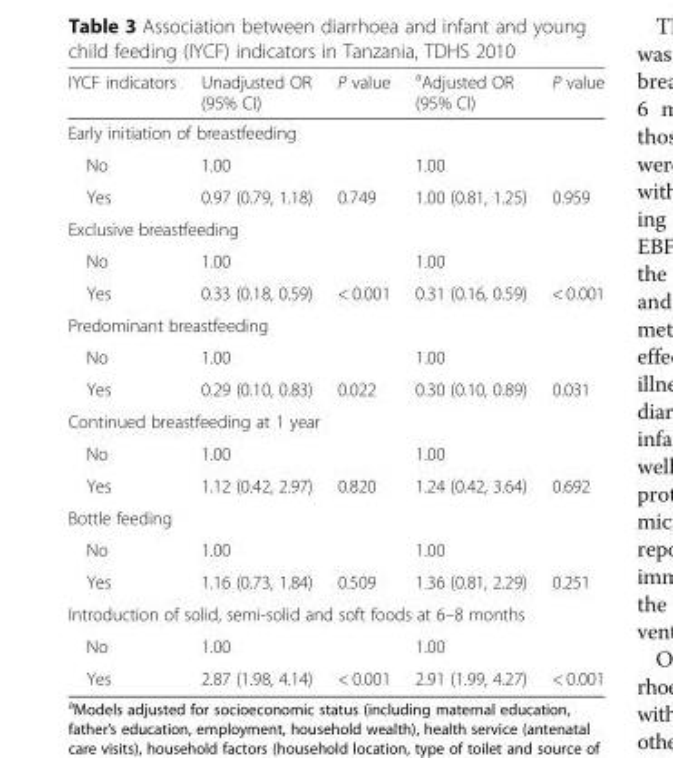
<table><thead><tr><td>IYCF indicators</td><td>Unadjusted OR (95% CI)</td><td>P value</td><td><sup>a</sup>Adjusted OR (95% CI)</td><td>P value</td></tr></thead><tbody><tr><td colspan="5">Early initiation of breastfeeding</td></tr><tr><td>No</td><td>1.00</td><td></td><td>1.00</td><td></td></tr><tr><td>Yes</td><td>0.97 (0.79, 1.18)</td><td>0.749</td><td>1.00 (0.81, 1.25)</td><td>0.959</td></tr><tr><td colspan="5">Exclusive breastfeeding</td></tr><tr><td>No</td><td>1.00</td><td></td><td>1.00</td><td></td></tr><tr><td>Yes</td><td>0.33 (0.18, 0.59)</td><td>&lt; 0.001</td><td>0.31 (0.16, 0.59)</td><td>&lt; 0.001</td></tr><tr><td colspan="5">Predominant breastfeeding</td></tr><tr><td>No</td><td>1.00</td><td></td><td>1.00</td><td></td></tr><tr><td>Yes</td><td>0.29 (0.10, 0.83)</td><td>0.022</td><td>0.30 (0.10, 0.89)</td><td>0.031</td></tr><tr><td colspan="5">Continued breastfeeding at 1 year</td></tr><tr><td>No</td><td>1.00</td><td></td><td>1.00</td><td></td></tr><tr><td>Yes</td><td>1.12 (0.42, 2.97)</td><td>0.820</td><td>1.24 (0.42, 3.64)</td><td>0.692</td></tr><tr><td colspan="5">Bottle feeding</td></tr><tr><td>No</td><td>1.00</td><td></td><td>1.00</td><td></td></tr><tr><td>Yes</td><td>1.16 (0.73, 1.84)</td><td>0.509</td><td>1.36 (0.81, 2.29)</td><td>0.251</td></tr><tr><td colspan="5">Introduction of solid, semi-solid and soft foods at 6–8 months</td></tr><tr><td>No</td><td>1.00</td><td></td><td>1.00</td><td></td></tr><tr><td>Yes</td><td>2.87 (1.98, 4.14)</td><td>&lt; 0.001</td><td>2.91 (1.99, 4.27)</td><td>&lt; 0.001</td></tr></tbody></table>